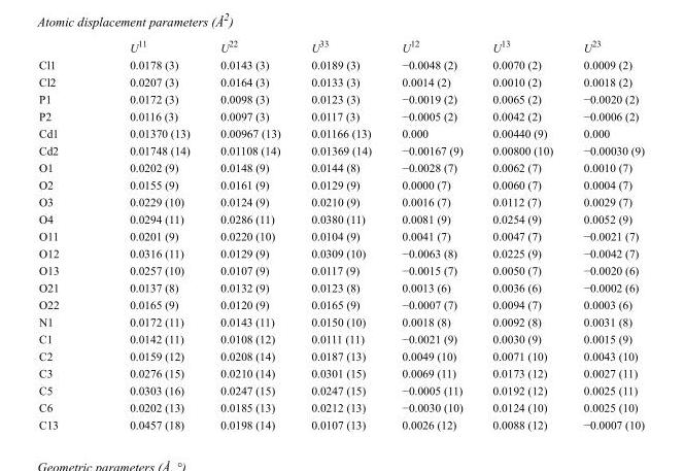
<table><thead><tr><td></td><td>U<sup>11</sup></td><td>U<sup>22</sup></td><td>U<sup>33</sup></td><td>U<sup>12</sup></td><td>U<sup>13</sup></td><td>U<sup>23</sup></td></tr></thead><tbody><tr><td>Cl1</td><td>0.0178 (3)</td><td>0.0143 (3)</td><td>0.0189 (3)</td><td>−0.0048 (2)</td><td>0.0070 (2)</td><td>0.0009 (2)</td></tr><tr><td>Cl2</td><td>0.0207 (3)</td><td>0.0164 (3)</td><td>0.0133 (3)</td><td>0.0014 (2)</td><td>0.0010 (2)</td><td>0.0018 (2)</td></tr><tr><td>P1</td><td>0.0172 (3)</td><td>0.0098 (3)</td><td>0.0123 (3)</td><td>−0.0019 (2)</td><td>0.0065 (2)</td><td>−0.0020 (2)</td></tr><tr><td>P2</td><td>0.0116 (3)</td><td>0.0097 (3)</td><td>0.0117 (3)</td><td>−0.0005 (2)</td><td>0.0042 (2)</td><td>−0.0006 (2)</td></tr><tr><td>Cd1</td><td>0.01370 (13)</td><td>0.00967 (13)</td><td>0.01166 (13)</td><td>0.000</td><td>0.00440 (9)</td><td>0.000</td></tr><tr><td>Cd2</td><td>0.01748 (14)</td><td>0.01108 (14)</td><td>0.01369 (14)</td><td>−0.00167 (9)</td><td>0.00800 (10)</td><td>−0.00030 (9)</td></tr><tr><td>O1</td><td>0.0202 (9)</td><td>0.0148 (9)</td><td>0.0144 (8)</td><td>−0.0028 (7)</td><td>0.0062 (7)</td><td>0.0010 (7)</td></tr><tr><td>O2</td><td>0.0155 (9)</td><td>0.0161 (9)</td><td>0.0129 (9)</td><td>0.0000 (7)</td><td>0.0060 (7)</td><td>0.0004 (7)</td></tr><tr><td>O3</td><td>0.0229 (10)</td><td>0.0124 (9)</td><td>0.0210 (9)</td><td>0.0016 (7)</td><td>0.0112 (7)</td><td>0.0029 (7)</td></tr><tr><td>O4</td><td>0.0294 (11)</td><td>0.0286 (11)</td><td>0.0380 (11)</td><td>0.0081 (9)</td><td>0.0254 (9)</td><td>0.0052 (9)</td></tr><tr><td>O11</td><td>0.0201 (9)</td><td>0.0220 (10)</td><td>0.0104 (9)</td><td>0.0041 (7)</td><td>0.0047 (7)</td><td>−0.0021 (7)</td></tr><tr><td>O12</td><td>0.0316 (11)</td><td>0.0129 (9)</td><td>0.0309 (10)</td><td>−0.0063 (8)</td><td>0.0225 (9)</td><td>−0.0042 (7)</td></tr><tr><td>O13</td><td>0.0257 (10)</td><td>0.0107 (9)</td><td>0.0117 (9)</td><td>−0.0015 (7)</td><td>0.0050 (7)</td><td>−0.0020 (6)</td></tr><tr><td>O21</td><td>0.0137 (8)</td><td>0.0132 (9)</td><td>0.0123 (8)</td><td>0.0013 (6)</td><td>0.0036 (6)</td><td>−0.0002 (6)</td></tr><tr><td>O22</td><td>0.0165 (9)</td><td>0.0120 (9)</td><td>0.0165 (9)</td><td>−0.0007 (7)</td><td>0.0094 (7)</td><td>0.0003 (6)</td></tr><tr><td>N1</td><td>0.0172 (11)</td><td>0.0143 (11)</td><td>0.0150 (10)</td><td>0.0018 (8)</td><td>0.0092 (8)</td><td>0.0031 (8)</td></tr><tr><td>C1</td><td>0.0142 (11)</td><td>0.0108 (12)</td><td>0.0111 (11)</td><td>−0.0021 (9)</td><td>0.0030 (9)</td><td>0.0015 (9)</td></tr><tr><td>C2</td><td>0.0159 (12)</td><td>0.0208 (14)</td><td>0.0187 (13)</td><td>0.0049 (10)</td><td>0.0071 (10)</td><td>0.0043 (10)</td></tr><tr><td>C3</td><td>0.0276 (15)</td><td>0.0210 (14)</td><td>0.0301 (15)</td><td>0.0069 (11)</td><td>0.0173 (12)</td><td>0.0027 (11)</td></tr><tr><td>C5</td><td>0.0303 (16)</td><td>0.0247 (15)</td><td>0.0247 (15)</td><td>−0.0005 (11)</td><td>0.0192 (12)</td><td>0.0025 (11)</td></tr><tr><td>C6</td><td>0.0202 (13)</td><td>0.0185 (13)</td><td>0.0212 (13)</td><td>−0.0030 (10)</td><td>0.0124 (10)</td><td>0.0025 (10)</td></tr><tr><td>C13</td><td>0.0457 (18)</td><td>0.0198 (14)</td><td>0.0107 (13)</td><td>0.0026 (12)</td><td>0.0088 (12)</td><td>−0.0007 (10)</td></tr></tbody></table>